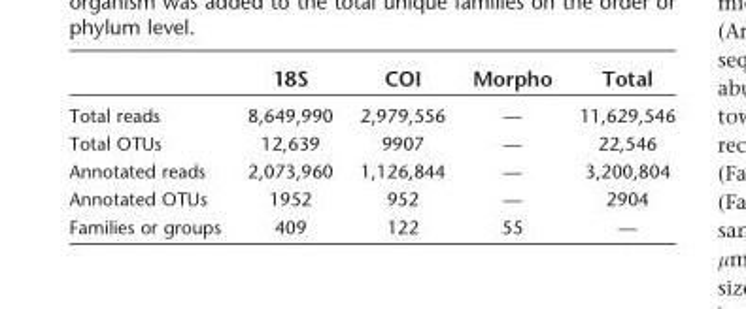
<table><thead><tr><td></td><td>18S</td><td>COI</td><td>Morpho</td><td>Total</td></tr></thead><tbody><tr><td>Total reads</td><td>8,649,990</td><td>2,979,556</td><td>—</td><td>11,629,546</td></tr><tr><td>Total OTUs</td><td>12,639</td><td>9907</td><td>—</td><td>22,546</td></tr><tr><td>Annotated reads</td><td>2,073,960</td><td>1,126,844</td><td>—</td><td>3,200,804</td></tr><tr><td>Annotated OTUs</td><td>1952</td><td>952</td><td>—</td><td>2904</td></tr><tr><td>Families or groups</td><td>409</td><td>122</td><td>55</td><td>—</td></tr></tbody></table>